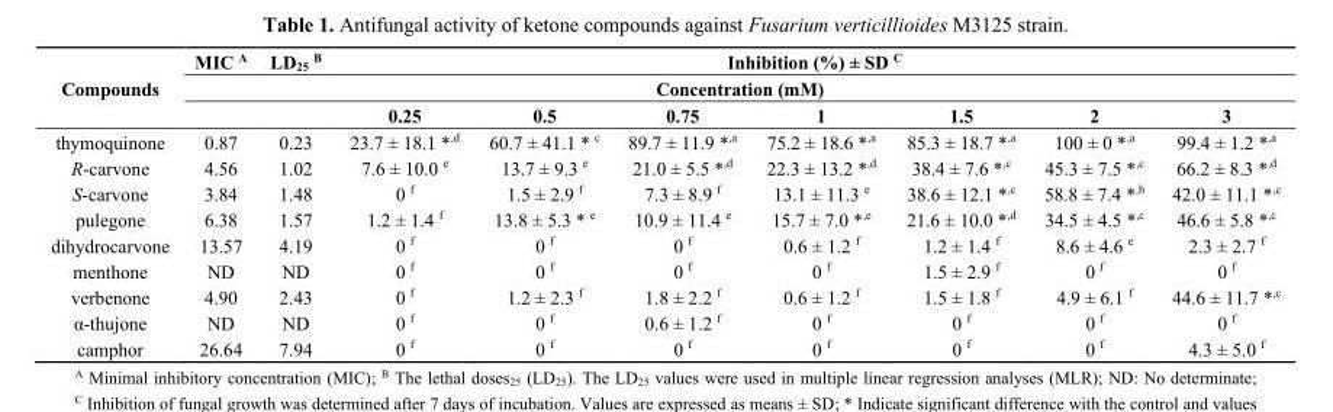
<table><thead><tr><td rowspan="3">Compounds</td><td>MIC <sup>A</sup></td><td>LD<sub>25</sub> <sup>B</sup></td><td colspan="7">Inhibition (%) ± SD <sup>C</sup></td></tr><tr><td colspan="9">Concentration (mM)</td></tr><tr><td></td><td></td><td>0.25</td><td>0.5</td><td>0.75</td><td>1</td><td>1.5</td><td>2</td><td>3</td></tr></thead><tbody><tr><td>thymoquinone</td><td>0.87</td><td>0.23</td><td>23.7 ± 18.1 *<sup>,d</sup></td><td>60.7 ± 41.1 * <sup>c</sup></td><td>89.7 ± 11.9 *<sup>,a</sup></td><td>75.2 ± 18.6 *<sup>,a</sup></td><td>85.3 ± 18.7 *<sup>,a</sup></td><td>100 ± 0 *<sup>,a</sup></td><td>99.4 ± 1.2 *<sup>,a</sup></td></tr><tr><td>R-carvone</td><td>4.56</td><td>1.02</td><td>7.6 ± 10.0 <sup>e</sup></td><td>13.7 ± 9.3 <sup>e</sup></td><td>21.0 ± 5.5 *<sup>,d</sup></td><td>22.3 ± 13.2 *<sup>,d</sup></td><td>38.4 ± 7.6 *<sup>,c</sup></td><td>45.3 ± 7.5 *<sup>,c</sup></td><td>66.2 ± 8.3 *<sup>,d</sup></td></tr><tr><td>S-carvone</td><td>3.84</td><td>1.48</td><td>0 <sup>f</sup></td><td>1.5 ± 2.9 <sup>f</sup></td><td>7.3 ± 8.9 <sup>f</sup></td><td>13.1 ± 11.3 <sup>e</sup></td><td>38.6 ± 12.1 *<sup>,c</sup></td><td>58.8 ± 7.4 *<sup>,b</sup></td><td>42.0 ± 11.1 *<sup>,c</sup></td></tr><tr><td>pulegone</td><td>6.38</td><td>1.57</td><td>1.2 ± 1.4 <sup>f</sup></td><td>13.8 ± 5.3 * <sup>e</sup></td><td>10.9 ± 11.4 <sup>e</sup></td><td>15.7 ± 7.0 *<sup>,e</sup></td><td>21.6 ± 10.0 *<sup>,d</sup></td><td>34.5 ± 4.5 *<sup>,c</sup></td><td>46.6 ± 5.8 *<sup>,c</sup></td></tr><tr><td>dihydrocarvone</td><td>13.57</td><td>4.19</td><td>0 <sup>f</sup></td><td>0 <sup>f</sup></td><td>0 <sup>f</sup></td><td>0.6 ± 1.2 <sup>f</sup></td><td>1.2 ± 1.4 <sup>f</sup></td><td>8.6 ± 4.6 <sup>e</sup></td><td>2.3 ± 2.7 <sup>f</sup></td></tr><tr><td>menthone</td><td>ND</td><td>ND</td><td>0 <sup>f</sup></td><td>0 <sup>f</sup></td><td>0 <sup>f</sup></td><td>0 <sup>f</sup></td><td>1.5 ± 2.9 <sup>f</sup></td><td>0 <sup>f</sup></td><td>0 <sup>f</sup></td></tr><tr><td>verbenone</td><td>4.90</td><td>2.43</td><td>0 <sup>f</sup></td><td>1.2 ± 2.3 <sup>f</sup></td><td>1.8 ± 2.2 <sup>f</sup></td><td>0.6 ± 1.2 <sup>f</sup></td><td>1.5 ± 1.8 <sup>f</sup></td><td>4.9 ± 6.1 <sup>f</sup></td><td>44.6 ± 11.7 *<sup>,c</sup></td></tr><tr><td>α-thujone</td><td>ND</td><td>ND</td><td>0 <sup>f</sup></td><td>0 <sup>f</sup></td><td>0.6 ± 1.2 <sup>f</sup></td><td>0 <sup>f</sup></td><td>0 <sup>f</sup></td><td>0 <sup>f</sup></td><td>0 <sup>f</sup></td></tr><tr><td>camphor</td><td>26.64</td><td>7.94</td><td>0 <sup>f</sup></td><td>0 <sup>f</sup></td><td>0 <sup>f</sup></td><td>0 <sup>f</sup></td><td>0 <sup>f</sup></td><td>0 <sup>f</sup></td><td>4.3 ± 5.0 <sup>f</sup></td></tr></tbody></table>